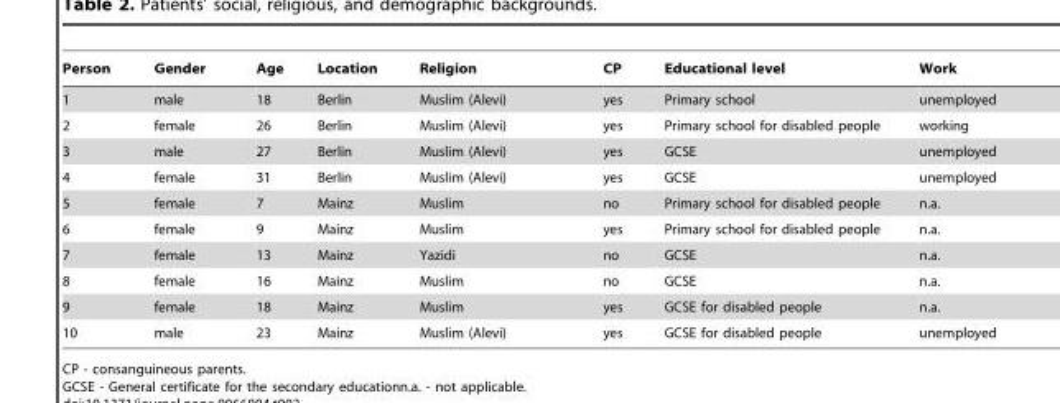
<table><thead><tr><td>Person</td><td>Gender</td><td>Age</td><td>Location</td><td>Religion</td><td>CP</td><td>Educational level</td><td>Work</td></tr></thead><tbody><tr><td>1</td><td>male</td><td>18</td><td>Berlin</td><td>Muslim (Alevi)</td><td>yes</td><td>Primary school</td><td>unemployed</td></tr><tr><td>2</td><td>female</td><td>26</td><td>Berlin</td><td>Muslim (Alevi)</td><td>yes</td><td>Primary school for disabled people</td><td>working</td></tr><tr><td>3</td><td>male</td><td>27</td><td>Berlin</td><td>Muslim (Alevi)</td><td>yes</td><td>GCSE</td><td>unemployed</td></tr><tr><td>4</td><td>female</td><td>31</td><td>Berlin</td><td>Muslim (Alevi)</td><td>yes</td><td>GCSE</td><td>unemployed</td></tr><tr><td>5</td><td>female</td><td>7</td><td>Mainz</td><td>Muslim</td><td>no</td><td>Primary school for disabled people</td><td>n.a.</td></tr><tr><td>6</td><td>female</td><td>9</td><td>Mainz</td><td>Muslim</td><td>yes</td><td>Primary school for disabled people</td><td>n.a.</td></tr><tr><td>7</td><td>female</td><td>13</td><td>Mainz</td><td>Yazidi</td><td>no</td><td>GCSE</td><td>n.a.</td></tr><tr><td>8</td><td>female</td><td>16</td><td>Mainz</td><td>Muslim</td><td>no</td><td>GCSE</td><td>n.a.</td></tr><tr><td>9</td><td>female</td><td>18</td><td>Mainz</td><td>Muslim</td><td>yes</td><td>GCSE for disabled people</td><td>n.a.</td></tr><tr><td>10</td><td>male</td><td>23</td><td>Mainz</td><td>Muslim (Alevi)</td><td>yes</td><td>GCSE for disabled people</td><td>unemployed</td></tr></tbody></table>